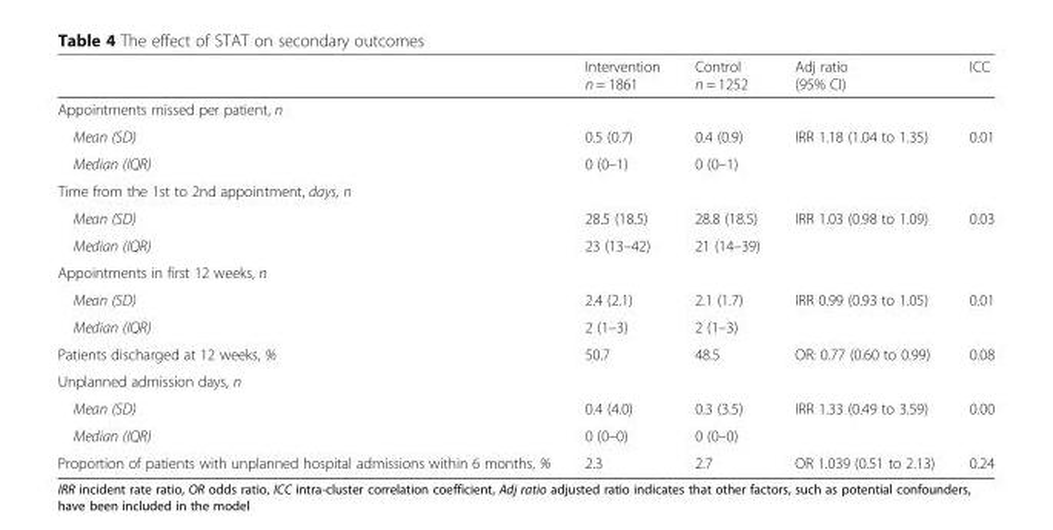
<table><thead><tr><td></td><td>Intervention n = 1861</td><td>Control n = 1252</td><td>Adj ratio (95% CI)</td><td>ICC</td></tr></thead><tbody><tr><td colspan="5">Appointments missed per patient, n</td></tr><tr><td>Mean (SD)</td><td>0.5 (0.7)</td><td>0.4 (0.9)</td><td rowspan="2">IRR 1.18 (1.04 to 1.35)</td><td rowspan="2">0.01</td></tr><tr><td>Median (IQR)</td><td>0 (0–1)</td><td>0 (0–1)</td></tr><tr><td colspan="5">Time from the 1st to 2nd appointment, days, n</td></tr><tr><td>Mean (SD)</td><td>28.5 (18.5)</td><td>28.8 (18.5)</td><td rowspan="2">IRR 1.03 (0.98 to 1.09)</td><td rowspan="2">0.03</td></tr><tr><td>Median (IQR)</td><td>23 (13–42)</td><td>21 (14–39)</td></tr><tr><td colspan="5">Appointments in first 12 weeks, n</td></tr><tr><td>Mean (SD)</td><td>2.4 (2.1)</td><td>2.1 (1.7)</td><td rowspan="2">IRR 0.99 (0.93 to 1.05)</td><td rowspan="2">0.01</td></tr><tr><td>Median (IQR)</td><td>2 (1–3)</td><td>2 (1–3)</td></tr><tr><td>Patients discharged at 12 weeks, %</td><td>50.7</td><td>48.5</td><td>OR: 0.77 (0.60 to 0.99)</td><td>0.08</td></tr><tr><td colspan="5">Unplanned admission days, n</td></tr><tr><td>Mean (SD)</td><td>0.4 (4.0)</td><td>0.3 (3.5)</td><td rowspan="2">IRR 1.33 (0.49 to 3.59)</td><td rowspan="2">0.00</td></tr><tr><td>Median (IQR)</td><td>0 (0–0)</td><td>0 (0–0)</td></tr><tr><td>Proportion of patients with unplanned hospital admissions within 6 months, %</td><td>2.3</td><td>2.7</td><td>OR 1.039 (0.51 to 2.13)</td><td>0.24</td></tr></tbody></table>